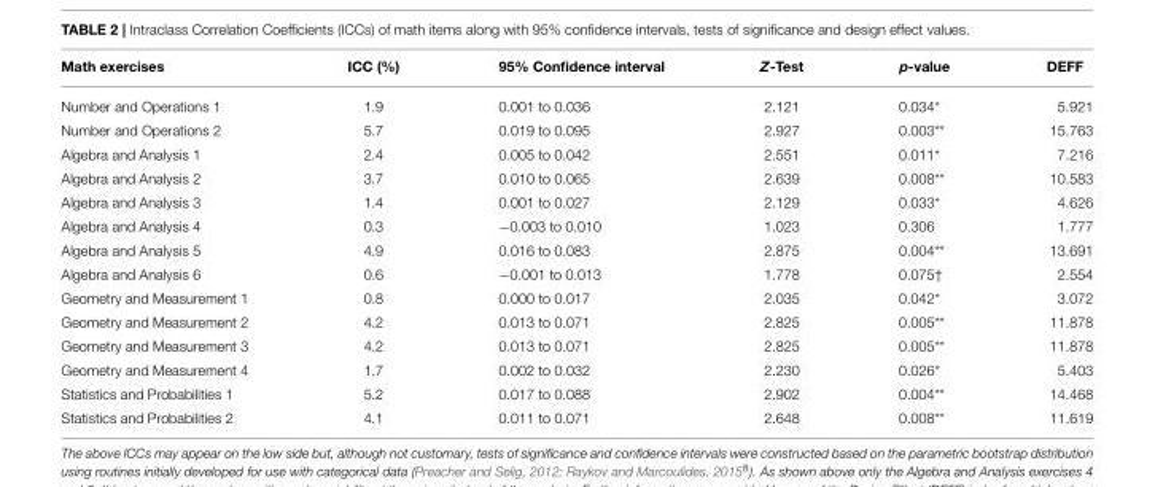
<table><thead><tr><td>Math exercises</td><td>ICC (%)</td><td>95% Confidence interval</td><td>Z-Test</td><td>p-value</td><td>DEFF</td></tr></thead><tbody><tr><td>Number and Operations 1</td><td>1.9</td><td>0.001 to 0.036</td><td>2.121</td><td>0.034*</td><td>5.921</td></tr><tr><td>Number and Operations 2</td><td>5.7</td><td>0.019 to 0.095</td><td>2.927</td><td>0.003**</td><td>15.763</td></tr><tr><td>Algebra and Analysis 1</td><td>2.4</td><td>0.005 to 0.042</td><td>2.551</td><td>0.011*</td><td>7.216</td></tr><tr><td>Algebra and Analysis 2</td><td>3.7</td><td>0.010 to 0.065</td><td>2.639</td><td>0.008**</td><td>10.583</td></tr><tr><td>Algebra and Analysis 3</td><td>1.4</td><td>0.001 to 0.027</td><td>2.129</td><td>0.033*</td><td>4.626</td></tr><tr><td>Algebra and Analysis 4</td><td>0.3</td><td>−0.003 to 0.010</td><td>1.023</td><td>0.306</td><td>1.777</td></tr><tr><td>Algebra and Analysis 5</td><td>4.9</td><td>0.016 to 0.083</td><td>2.875</td><td>0.004**</td><td>13.691</td></tr><tr><td>Algebra and Analysis 6</td><td>0.6</td><td>−0.001 to 0.013</td><td>1.778</td><td>0.075†</td><td>2.554</td></tr><tr><td>Geometry and Measurement 1</td><td>0.8</td><td>0.000 to 0.017</td><td>2.035</td><td>0.042*</td><td>3.072</td></tr><tr><td>Geometry and Measurement 2</td><td>4.2</td><td>0.013 to 0.071</td><td>2.825</td><td>0.005**</td><td>11.878</td></tr><tr><td>Geometry and Measurement 3</td><td>4.2</td><td>0.013 to 0.071</td><td>2.825</td><td>0.005**</td><td>11.878</td></tr><tr><td>Geometry and Measurement 4</td><td>1.7</td><td>0.002 to 0.032</td><td>2.230</td><td>0.026*</td><td>5.403</td></tr><tr><td>Statistics and Probabilities 1</td><td>5.2</td><td>0.017 to 0.088</td><td>2.902</td><td>0.004**</td><td>14.468</td></tr><tr><td>Statistics and Probabilities 2</td><td>4.1</td><td>0.011 to 0.071</td><td>2.648</td><td>0.008**</td><td>11.619</td></tr></tbody></table>